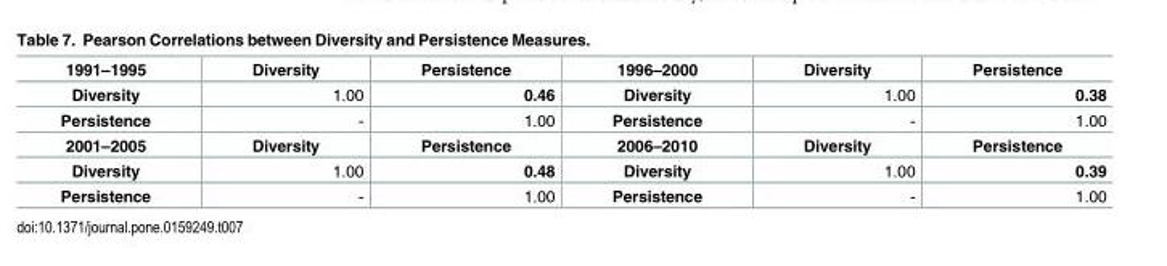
<table><tbody><tr><td>1991–1995</td><td>Diversity</td><td>Persistence</td><td>1996–2000</td><td>Diversity</td><td>Persistence</td></tr><tr><td>Diversity</td><td>1.00</td><td>0.46</td><td>Diversity</td><td>1.00</td><td>0.38</td></tr><tr><td>Persistence</td><td>-</td><td>1.00</td><td>Persistence</td><td>-</td><td>1.00</td></tr><tr><td>2001–2005</td><td>Diversity</td><td>Persistence</td><td>2006–2010</td><td>Diversity</td><td>Persistence</td></tr><tr><td>Diversity</td><td>1.00</td><td>0.48</td><td>Diversity</td><td>1.00</td><td>0.39</td></tr><tr><td>Persistence</td><td>-</td><td>1.00</td><td>Persistence</td><td>-</td><td>1.00</td></tr></tbody></table>